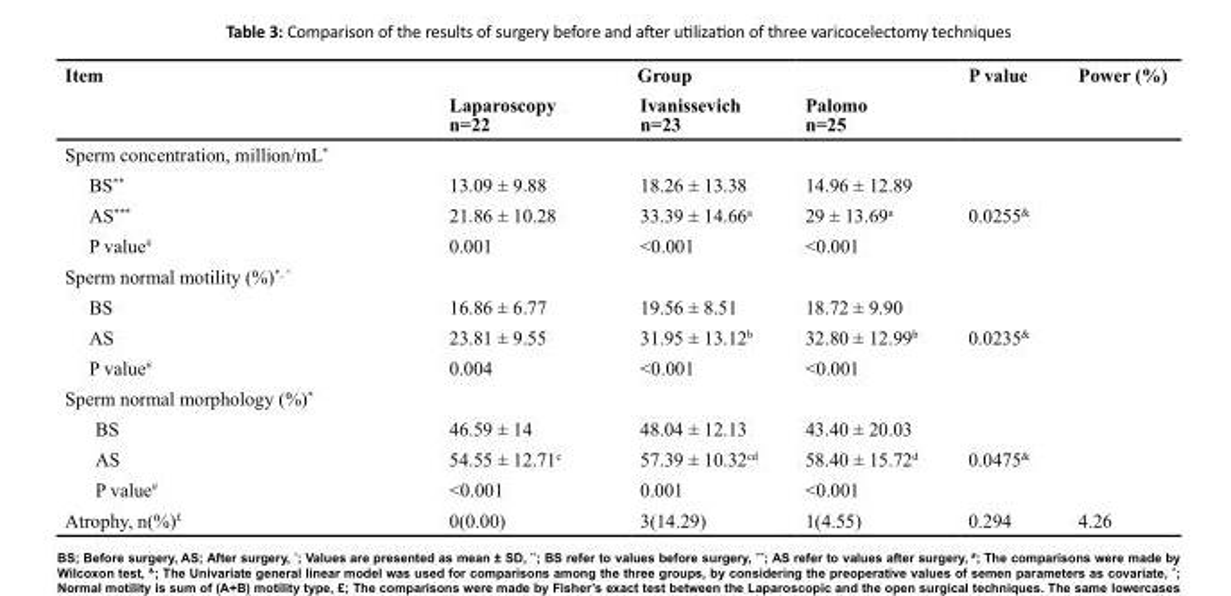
<table><thead><tr><td rowspan="2">Item</td><td colspan="3">Group</td><td rowspan="2">P value</td><td rowspan="2">Power (%)</td></tr><tr><td>Laparoscopy n=22</td><td>Ivanissevich n=23</td><td>Palomo n=25</td></tr></thead><tbody><tr><td colspan="6">Sperm concentration, million/mL*</td></tr><tr><td>BS**</td><td>13.09 ± 9.88</td><td>18.26 ± 13.38</td><td>14.96 ± 12.89</td><td></td><td></td></tr><tr><td>AS***</td><td>21.86 ± 10.28</td><td>33.39 ± 14.66<sup>a</sup></td><td>29 ± 13.69<sup>a</sup></td><td>0.0255<sup>&amp;</sup></td><td></td></tr><tr><td>P value<sup>#</sup></td><td>0.001</td><td>&lt;0.001</td><td>&lt;0.001</td><td></td><td></td></tr><tr><td colspan="6">Sperm normal motility (%)*, ^</td></tr><tr><td>BS</td><td>16.86 ± 6.77</td><td>19.56 ± 8.51</td><td>18.72 ± 9.90</td><td></td><td></td></tr><tr><td>AS</td><td>23.81 ± 9.55</td><td>31.95 ± 13.12<sup>b</sup></td><td>32.80 ± 12.99<sup>b</sup></td><td>0.0235<sup>&amp;</sup></td><td></td></tr><tr><td>P value<sup>#</sup></td><td>0.004</td><td>&lt;0.001</td><td>&lt;0.001</td><td></td><td></td></tr><tr><td colspan="6">Sperm normal morphology (%)*</td></tr><tr><td>BS</td><td>46.59 ± 14</td><td>48.04 ± 12.13</td><td>43.40 ± 20.03</td><td></td><td></td></tr><tr><td>AS</td><td>54.55 ± 12.71<sup>c</sup></td><td>57.39 ± 10.32<sup>cd</sup></td><td>58.40 ± 15.72<sup>d</sup></td><td>0.0475<sup>&amp;</sup></td><td></td></tr><tr><td>P value<sup>#</sup></td><td>&lt;0.001</td><td>0.001</td><td>&lt;0.001</td><td></td><td></td></tr><tr><td>Atrophy, n(%)<sup>£</sup></td><td>0(0.00)</td><td>3(14.29)</td><td>1(4.55)</td><td>0.294</td><td>4.26</td></tr></tbody></table>